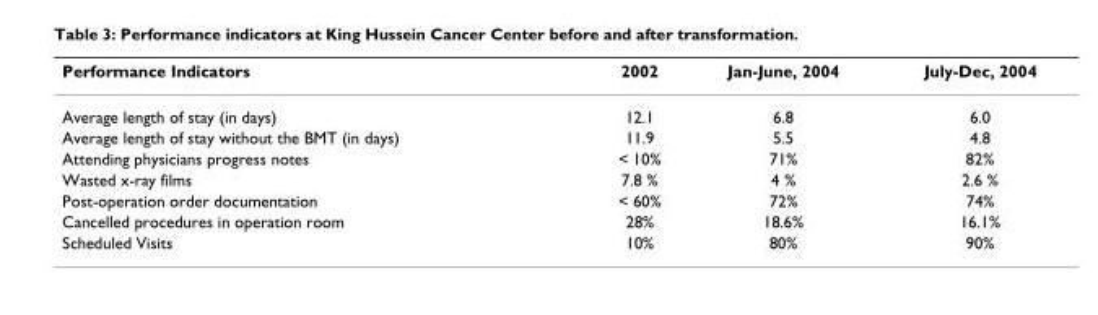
<table><thead><tr><td>Performance Indicators</td><td>2002</td><td>Jan-June, 2004</td><td>July-Dec, 2004</td></tr></thead><tbody><tr><td>Average length of stay (in days)</td><td>12.1</td><td>6.8</td><td>6.0</td></tr><tr><td>Average length of stay without the BMT (in days)</td><td>11.9</td><td>5.5</td><td>4.8</td></tr><tr><td>Attending physicians progress notes</td><td>&lt; 10%</td><td>71%</td><td>82%</td></tr><tr><td>Wasted x-ray films</td><td>7.8 %</td><td>4 %</td><td>2.6 %</td></tr><tr><td>Post-operation order documentation</td><td>&lt; 60%</td><td>72%</td><td>74%</td></tr><tr><td>Cancelled procedures in operation room</td><td>28%</td><td>18.6%</td><td>16.1%</td></tr><tr><td>Scheduled Visits</td><td>10%</td><td>80%</td><td>90%</td></tr></tbody></table>